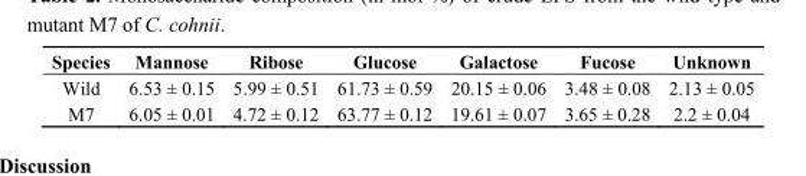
<table><thead><tr><td>Species</td><td>Mannose</td><td>Ribose</td><td>Glucose</td><td>Galactose</td><td>Fucose</td><td>Unknown</td></tr></thead><tbody><tr><td>Wild</td><td>6.53 ± 0.15</td><td>5.99 ± 0.51</td><td>61.73 ± 0.59</td><td>20.15 ± 0.06</td><td>3.48 ± 0.08</td><td>2.13 ± 0.05</td></tr><tr><td>M7</td><td>6.05 ± 0.01</td><td>4.72 ± 0.12</td><td>63.77 ± 0.12</td><td>19.61 ± 0.07</td><td>3.65 ± 0.28</td><td>2.2 ± 0.04</td></tr></tbody></table>